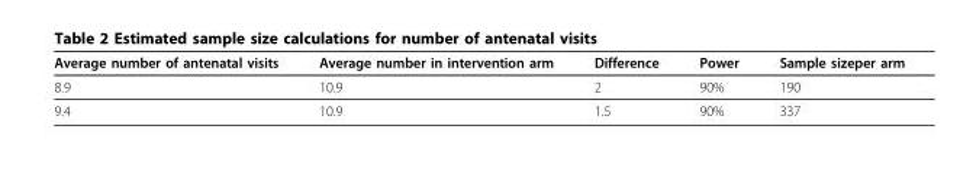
<table><thead><tr><td>Average number of antenatal visits</td><td>Average number in intervention arm</td><td>Difference</td><td>Power</td><td>Sample sizeper arm</td></tr></thead><tbody><tr><td>8.9</td><td>10.9</td><td>2</td><td>90%</td><td>190</td></tr><tr><td>9.4</td><td>10.9</td><td>1.5</td><td>90%</td><td>337</td></tr></tbody></table>